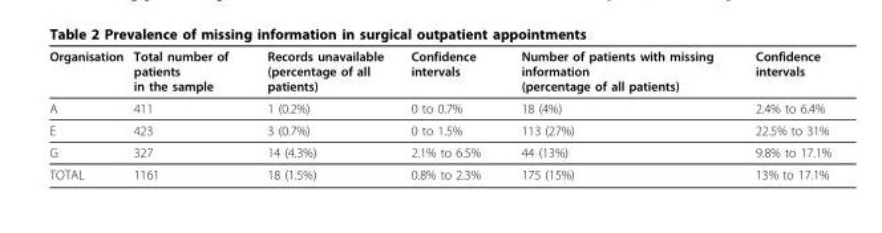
<table><thead><tr><td>Organisation</td><td>Total number of patients in the sample</td><td>Records unavailable (percentage of all patients)</td><td>Confidence intervals</td><td>Number of patients with missing information (percentage of all patients)</td><td>Confidence intervals</td></tr></thead><tbody><tr><td>A</td><td>411</td><td>1 (0.2%)</td><td>0 to 0.7%</td><td>18 (4%)</td><td>2.4% to 6.4%</td></tr><tr><td>E</td><td>423</td><td>3 (0.7%)</td><td>0 to 1.5%</td><td>113 (27%)</td><td>22.5% to 31%</td></tr><tr><td>G</td><td>327</td><td>14 (4.3%)</td><td>2.1% to 6.5%</td><td>44 (13%)</td><td>9.8% to 17.1%</td></tr><tr><td>TOTAL</td><td>1161</td><td>18 (1.5%)</td><td>0.8% to 2.3%</td><td>175 (15%)</td><td>13% to 17.1%</td></tr></tbody></table>